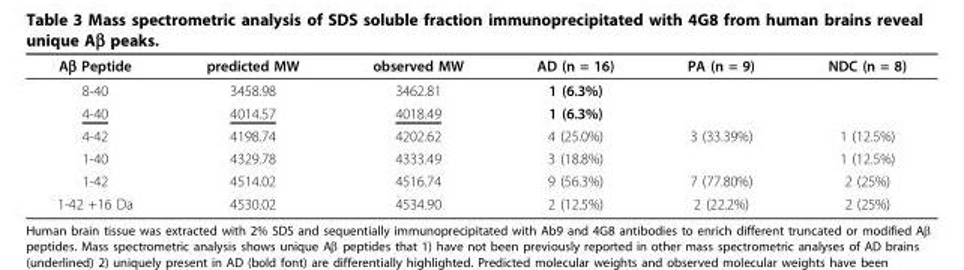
<table><thead><tr><td>Aβ Peptide</td><td>predicted MW</td><td>observed MW</td><td>AD (n = 16)</td><td>PA (n = 9)</td><td>NDC (n = 8)</td></tr></thead><tbody><tr><td>8-40</td><td>3458.98</td><td>3462.81</td><td>1 (6.3%)</td><td></td><td></td></tr><tr><td>4-40</td><td>4014.57</td><td>4018.49</td><td>1 (6.3%)</td><td></td><td></td></tr><tr><td>4-42</td><td>4198.74</td><td>4202.62</td><td>4 (25.0%)</td><td>3 (33.39%)</td><td>1 (12.5%)</td></tr><tr><td>1-40</td><td>4329.78</td><td>4333.49</td><td>3 (18.8%)</td><td></td><td>1 (12.5%)</td></tr><tr><td>1-42</td><td>4514.02</td><td>4516.74</td><td>9 (56.3%)</td><td>7 (77.80%)</td><td>2 (25%)</td></tr><tr><td>1-42 +16 Da</td><td>4530.02</td><td>4534.90</td><td>2 (12.5%)</td><td>2 (22.2%)</td><td>2 (25%)</td></tr></tbody></table>